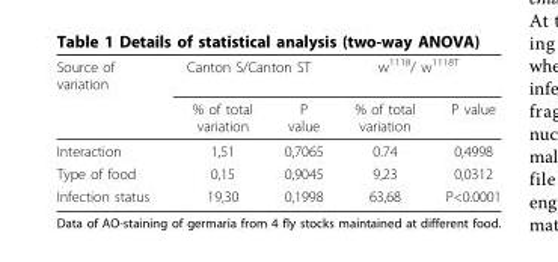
<table><thead><tr><td rowspan="2">Source of variation</td><td colspan="2">Canton S/Canton ST</td><td colspan="2">w<sup>1118</sup>/ w<sup>1118T</sup></td></tr><tr><td>% of total variation</td><td>P value</td><td>% of total variation</td><td>P value</td></tr></thead><tbody><tr><td>Interaction</td><td>1,51</td><td>0,7065</td><td>0.74</td><td>0,4998</td></tr><tr><td>Type of food</td><td>0,15</td><td>0,9045</td><td>9,23</td><td>0,0312</td></tr><tr><td>Infection status</td><td>19,30</td><td>0,1998</td><td>63,68</td><td>P&lt;0.0001</td></tr></tbody></table>